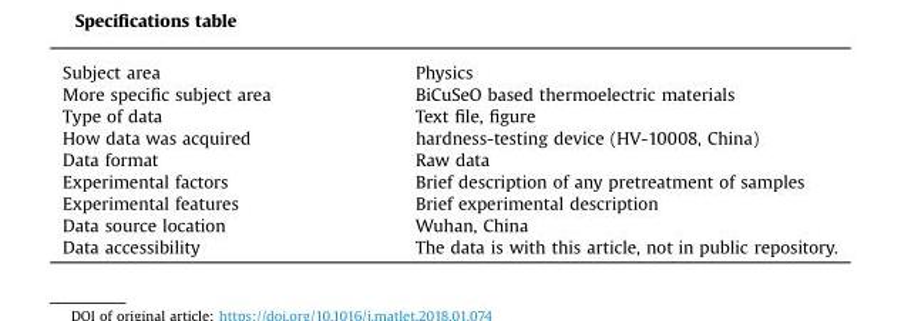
<table><tbody><tr><td>Subject area</td><td>Physics</td></tr><tr><td>More specific subject area</td><td>BiCuSeO based thermoelectric materials</td></tr><tr><td>Type of data</td><td>Text file, figure</td></tr><tr><td>How data was acquired</td><td>hardness-testing device (HV-10008, China)</td></tr><tr><td>Data format</td><td>Raw data</td></tr><tr><td>Experimental factors</td><td>Brief description of any pretreatment of samples</td></tr><tr><td>Experimental features</td><td>Brief experimental description</td></tr><tr><td>Data source location</td><td>Wuhan, China</td></tr><tr><td>Data accessibility</td><td>The data is with this article, not in public repository.</td></tr></tbody></table>